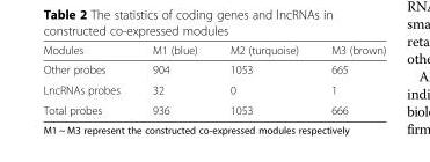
<table><thead><tr><td>Modules</td><td>M1 (blue)</td><td>M2 (turquoise)</td><td>M3 (brown)</td></tr></thead><tbody><tr><td>Other probes</td><td>904</td><td>1053</td><td>665</td></tr><tr><td>LncRNAs probes</td><td>32</td><td>0</td><td>1</td></tr><tr><td>Total probes</td><td>936</td><td>1053</td><td>666</td></tr></tbody></table>